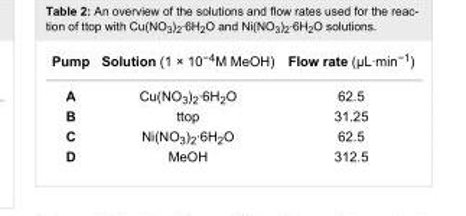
<table><tbody><tr><td>Pump</td><td>Solution (1 × 10<sup>−4</sup>M MeOH)</td><td>Flow rate (µL·min<sup>−1</sup>)</td></tr><tr><td>A</td><td>Cu(NO<sub>3</sub>)<sub>2</sub>·6H<sub>2</sub>O</td><td>62.5</td></tr><tr><td>B</td><td>ttop</td><td>31.25</td></tr><tr><td>C</td><td>Ni(NO<sub>3</sub>)<sub>2</sub>·6H<sub>2</sub>O</td><td>62.5</td></tr><tr><td>D</td><td>MeOH</td><td>312.5</td></tr></tbody></table>